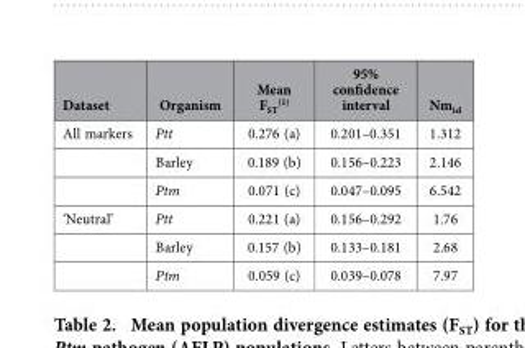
<table><thead><tr><td>Dataset</td><td>Organism</td><td>Mean F<sub>ST</sub> (1)</td><td>95% confidence interval</td><td>Nm<sub>isl</sub></td></tr></thead><tbody><tr><td rowspan="3">All markers</td><td>Ptt</td><td>0.276 (a)</td><td>0.201–0.351</td><td>1.312</td></tr><tr><td>Barley</td><td>0.189 (b)</td><td>0.156–0.223</td><td>2.146</td></tr><tr><td>Ptm</td><td>0.071 (c)</td><td>0.047–0.095</td><td>6.542</td></tr><tr><td rowspan="3">‘Neutral’</td><td>Ptt</td><td>0.221 (a)</td><td>0.156–0.292</td><td>1.76</td></tr><tr><td>Barley</td><td>0.157 (b)</td><td>0.133–0.181</td><td>2.68</td></tr><tr><td>Ptm</td><td>0.059 (c)</td><td>0.039–0.078</td><td>7.97</td></tr></tbody></table>